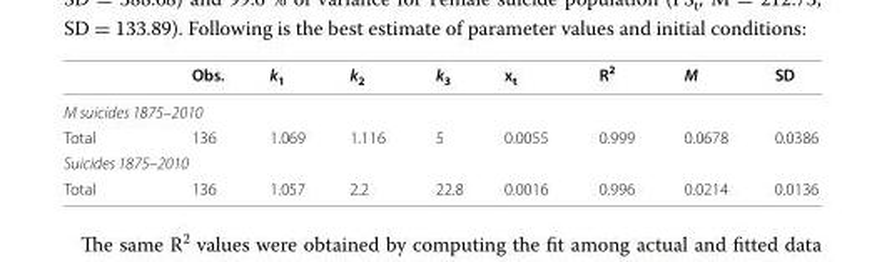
<table><thead><tr><td></td><td>Obs.</td><td>k<sub>1</sub></td><td>k<sub>2</sub></td><td>k<sub>3</sub></td><td>x<sub>t</sub></td><td>R<sup>2</sup></td><td>M</td><td>SD</td></tr></thead><tbody><tr><td colspan="9">M suicides 1875–2010</td></tr><tr><td>Total</td><td>136</td><td>1.069</td><td>1.116</td><td>5</td><td>0.0055</td><td>0.999</td><td>0.0678</td><td>0.0386</td></tr><tr><td colspan="9">Suicides 1875–2010</td></tr><tr><td>Total</td><td>136</td><td>1.057</td><td>2.2</td><td>22.8</td><td>0.0016</td><td>0.996</td><td>0.0214</td><td>0.0136</td></tr></tbody></table>